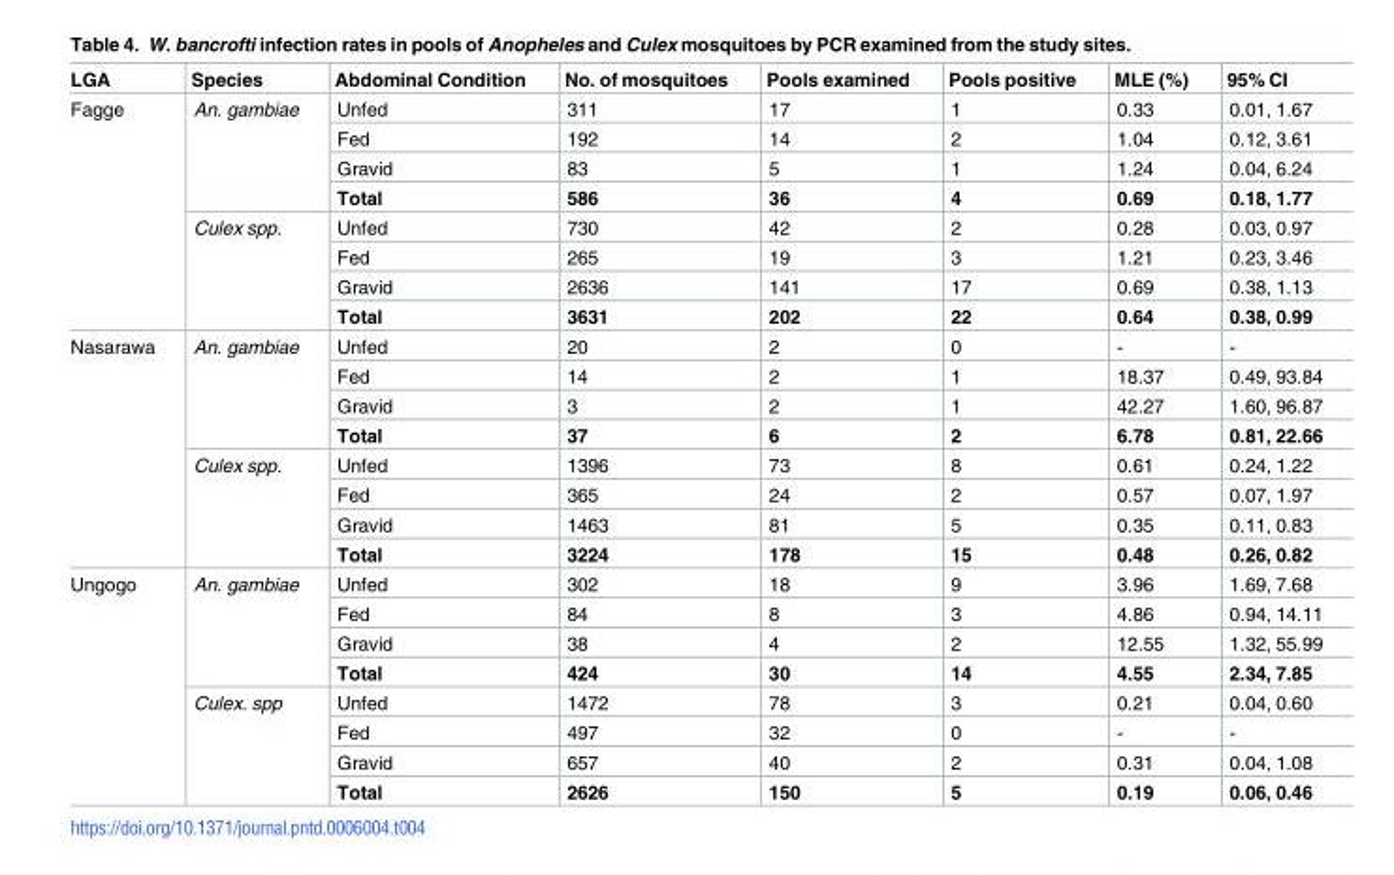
<table><thead><tr><td>LGA</td><td>Species</td><td>Abdominal Condition</td><td>No. of mosquitoes</td><td>Pools examined</td><td>Pools positive</td><td>MLE (%)</td><td>95% CI</td></tr></thead><tbody><tr><td rowspan="8">Fagge</td><td rowspan="4">An. gambiae</td><td>Unfed</td><td>311</td><td>17</td><td>1</td><td>0.33</td><td>0.01, 1.67</td></tr><tr><td>Fed</td><td>192</td><td>14</td><td>2</td><td>1.04</td><td>0.12, 3.61</td></tr><tr><td>Gravid</td><td>83</td><td>5</td><td>1</td><td>1.24</td><td>0.04, 6.24</td></tr><tr><td>Total</td><td>586</td><td>36</td><td>4</td><td>0.69</td><td>0.18, 1.77</td></tr><tr><td rowspan="4">Culex spp.</td><td>Unfed</td><td>730</td><td>42</td><td>2</td><td>0.28</td><td>0.03, 0.97</td></tr><tr><td>Fed</td><td>265</td><td>19</td><td>3</td><td>1.21</td><td>0.23, 3.46</td></tr><tr><td>Gravid</td><td>2636</td><td>141</td><td>17</td><td>0.69</td><td>0.38, 1.13</td></tr><tr><td>Total</td><td>3631</td><td>202</td><td>22</td><td>0.64</td><td>0.38, 0.99</td></tr><tr><td rowspan="8">Nasarawa</td><td rowspan="4">An. gambiae</td><td>Unfed</td><td>20</td><td>2</td><td>0</td><td>-</td><td>-</td></tr><tr><td>Fed</td><td>14</td><td>2</td><td>1</td><td>18.37</td><td>0.49, 93.84</td></tr><tr><td>Gravid</td><td>3</td><td>2</td><td>1</td><td>42.27</td><td>1.60, 96.87</td></tr><tr><td>Total</td><td>37</td><td>6</td><td>2</td><td>6.78</td><td>0.81, 22.66</td></tr><tr><td rowspan="4">Culex spp.</td><td>Unfed</td><td>1396</td><td>73</td><td>8</td><td>0.61</td><td>0.24, 1.22</td></tr><tr><td>Fed</td><td>365</td><td>24</td><td>2</td><td>0.57</td><td>0.07, 1.97</td></tr><tr><td>Gravid</td><td>1463</td><td>81</td><td>5</td><td>0.35</td><td>0.11, 0.83</td></tr><tr><td>Total</td><td>3224</td><td>178</td><td>15</td><td>0.48</td><td>0.26, 0.82</td></tr><tr><td rowspan="8">Ungogo</td><td rowspan="4">An. gambiae</td><td>Unfed</td><td>302</td><td>18</td><td>9</td><td>3.96</td><td>1.69, 7.68</td></tr><tr><td>Fed</td><td>84</td><td>8</td><td>3</td><td>4.86</td><td>0.94, 14.11</td></tr><tr><td>Gravid</td><td>38</td><td>4</td><td>2</td><td>12.55</td><td>1.32, 55.99</td></tr><tr><td>Total</td><td>424</td><td>30</td><td>14</td><td>4.55</td><td>2.34, 7.85</td></tr><tr><td rowspan="4">Culex. spp</td><td>Unfed</td><td>1472</td><td>78</td><td>3</td><td>0.21</td><td>0.04, 0.60</td></tr><tr><td>Fed</td><td>497</td><td>32</td><td>0</td><td>-</td><td>-</td></tr><tr><td>Gravid</td><td>657</td><td>40</td><td>2</td><td>0.31</td><td>0.04, 1.08</td></tr><tr><td>Total</td><td>2626</td><td>150</td><td>5</td><td>0.19</td><td>0.06, 0.46</td></tr></tbody></table>